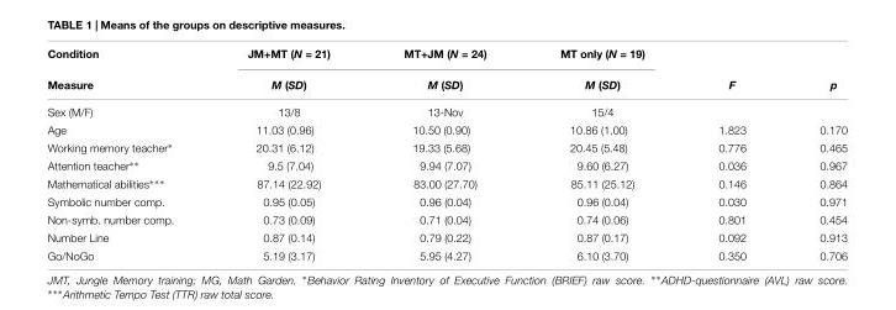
<table><thead><tr><td rowspan="2">Condition Measure</td><td rowspan="2">JM+MT (N = 21) M (SD)</td><td rowspan="2">MT+JM (N = 24) M (SD)</td><td rowspan="2">MT only (N = 19) M (SD)</td><td rowspan="2">F</td><td rowspan="2">p</td></tr><tr></tr></thead><tbody><tr><td>Sex (M/F)</td><td>13/8</td><td>13-Nov</td><td>15/4</td><td></td><td></td></tr><tr><td>Age</td><td>11.03 (0.96)</td><td>10.50 (0.90)</td><td>10.86 (1.00)</td><td>1.823</td><td>0.170</td></tr><tr><td>Working memory teacher∗</td><td>20.31 (6.12)</td><td>19.33 (5.68)</td><td>20.45 (5.48)</td><td>0.776</td><td>0.465</td></tr><tr><td>Attention teacher∗∗</td><td>9.5 (7.04)</td><td>9.94 (7.07)</td><td>9.60 (6.27)</td><td>0.036</td><td>0.967</td></tr><tr><td>Mathematical abilities∗∗∗</td><td>87.14 (22.92)</td><td>83.00 (27.70)</td><td>85.11 (25.12)</td><td>0.146</td><td>0.864</td></tr><tr><td>Symbolic number comp.</td><td>0.95 (0.05)</td><td>0.96 (0.04)</td><td>0.96 (0.04)</td><td>0.030</td><td>0.971</td></tr><tr><td>Non-symb. number comp.</td><td>0.73 (0.09)</td><td>0.71 (0.04)</td><td>0.74 (0.06)</td><td>0.801</td><td>0.454</td></tr><tr><td>Number Line</td><td>0.87 (0.14)</td><td>0.79 (0.22)</td><td>0.87 (0.17)</td><td>0.092</td><td>0.913</td></tr><tr><td>Go/NoGo</td><td>5.19 (3.17)</td><td>5.95 (4.27)</td><td>6.10 (3.70)</td><td>0.350</td><td>0.706</td></tr></tbody></table>